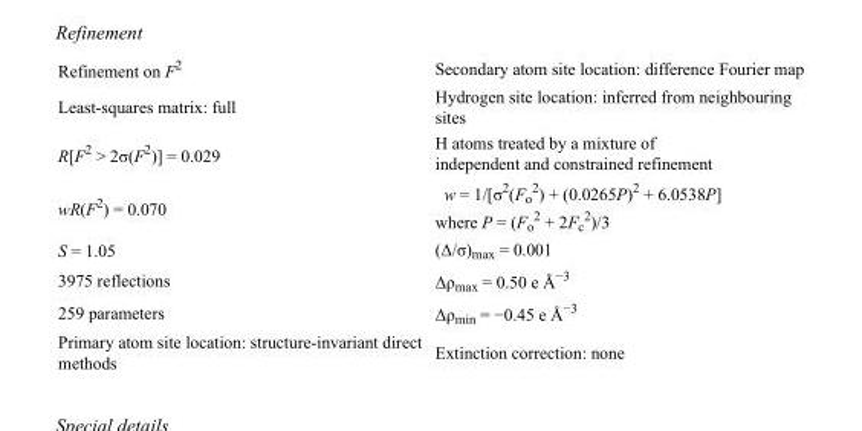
<table><tbody><tr><td>Refinement on F<sup>2</sup></td><td>Secondary atom site location: difference Fourier map</td></tr><tr><td>Least-squares matrix: full</td><td>Hydrogen site location: inferred from neighbouring sites</td></tr><tr><td>R[F<sup>2</sup> &gt; 2σ(F<sup>2</sup>)] = 0.029</td><td>H atoms treated by a mixture of independent and constrained refinement</td></tr><tr><td>wR(F<sup>2</sup>) = 0.070</td><td>w = 1/[σ<sup>2</sup>(F<sub>o</sub> <sup>2</sup>) + (0.0265P)<sup>2</sup> + 6.0538P] where P = (F<sub>o</sub> <sup>2</sup> + 2F<sub>c</sub> <sup>2</sup>)/3</td></tr><tr><td>S = 1.05</td><td>(Δ/σ)<sub>max</sub> = 0.001</td></tr><tr><td>3975 reflections</td><td>Δρ<sub>max</sub> = 0.50 e Å<sup>−3</sup></td></tr><tr><td>259 parameters</td><td>Δρ<sub>min</sub> = −0.45 e Å<sup>−3</sup></td></tr><tr><td>Primary atom site location: structure-invariant direct methods</td><td>Extinction correction: none</td></tr></tbody></table>